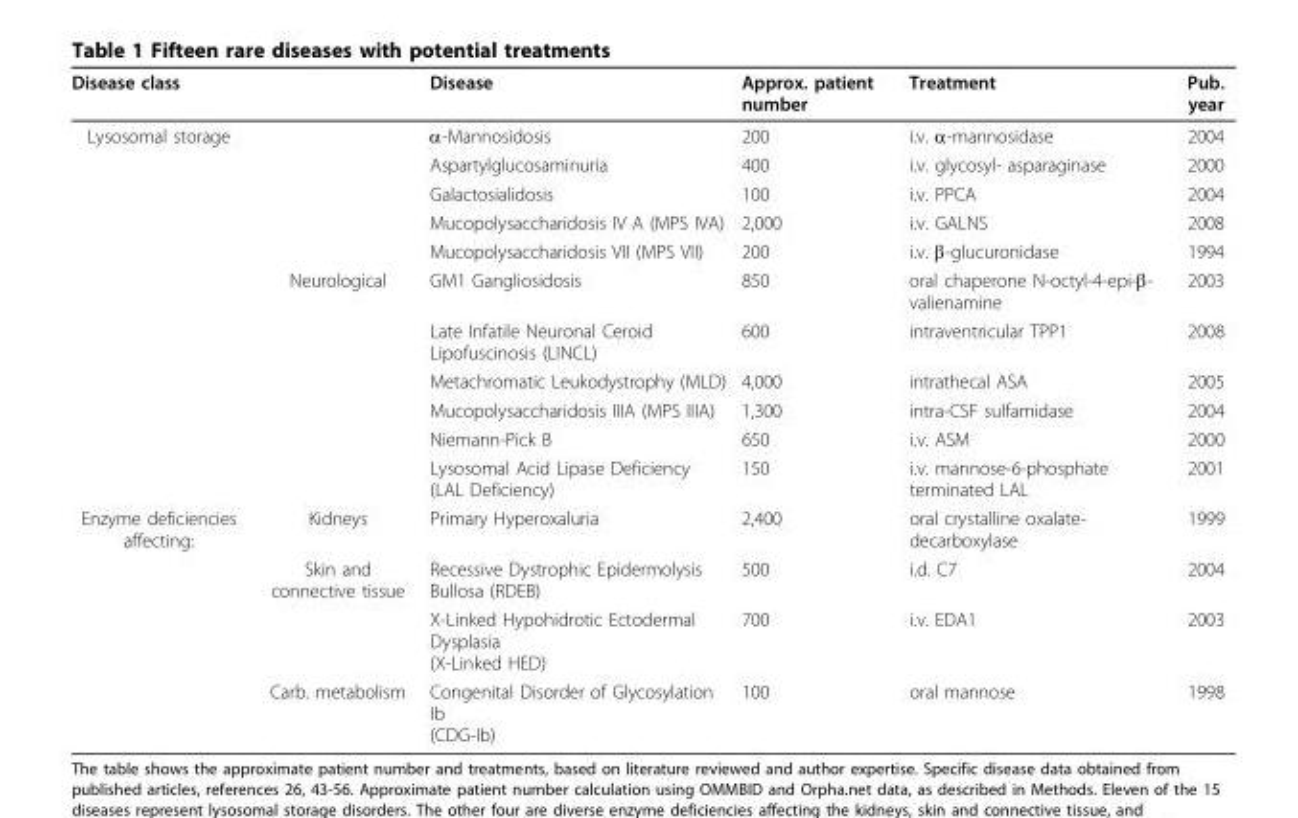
<table><thead><tr><td colspan="2">Disease class</td><td rowspan="2">Disease α-Mannosidosis</td><td rowspan="2">Approx. patient number 200</td><td rowspan="2">Treatment i.v. α-mannosidase</td><td rowspan="2">Pub. year 2004</td></tr><tr><td>Lysosomal storage</td><td></td></tr></thead><tbody><tr><td></td><td></td><td>Aspartylglucosaminuria</td><td>400</td><td>i.v. glycosyl- asparaginase</td><td>2000</td></tr><tr><td></td><td></td><td>Galactosialidosis</td><td>100</td><td>i.v. PPCA</td><td>2004</td></tr><tr><td></td><td></td><td>Mucopolysaccharidosis IV A (MPS IVA)</td><td>2,000</td><td>i.v. GALNS</td><td>2008</td></tr><tr><td></td><td></td><td>Mucopolysaccharidosis VII (MPS VII)</td><td>200</td><td>i.v. β-glucuronidase</td><td>1994</td></tr><tr><td></td><td>Neurological</td><td>GM1 Gangliosidosis</td><td>850</td><td>oral chaperone N-octyl-4-epi-β- valienamine</td><td>2003</td></tr><tr><td></td><td></td><td>Late Infatile Neuronal Ceroid Lipofuscinosis (LINCL)</td><td>600</td><td>intraventricular TPP1</td><td>2008</td></tr><tr><td></td><td></td><td>Metachromatic Leukodystrophy (MLD)</td><td>4,000</td><td>intrathecal ASA</td><td>2005</td></tr><tr><td></td><td></td><td>Mucopolysaccharidosis IIIA (MPS IIIA)</td><td>1,300</td><td>intra-CSF sulfamidase</td><td>2004</td></tr><tr><td></td><td></td><td>Niemann-Pick B</td><td>650</td><td>i.v. ASM</td><td>2000</td></tr><tr><td></td><td></td><td>Lysosomal Acid Lipase Deficiency (LAL Deficiency)</td><td>150</td><td>i.v. mannose-6-phosphate terminated LAL</td><td>2001</td></tr><tr><td rowspan="4">Enzyme deficiencies affecting:</td><td>Kidneys</td><td>Primary Hyperoxaluria</td><td>2,400</td><td>oral crystalline oxalate- decarboxylase</td><td>1999</td></tr><tr><td>Skin and connective tissue</td><td>Recessive Dystrophic Epidermolysis Bullosa (RDEB)</td><td>500</td><td>i.d. C7</td><td>2004</td></tr><tr><td></td><td>X-Linked Hypohidrotic Ectodermal Dysplasia (X-Linked HED)</td><td>700</td><td>i.v. EDA1</td><td>2003</td></tr><tr><td>Carb. metabolism</td><td>Congenital Disorder of Glycosylation Ib (CDG-Ib)</td><td>100</td><td>oral mannose</td><td>1998</td></tr></tbody></table>